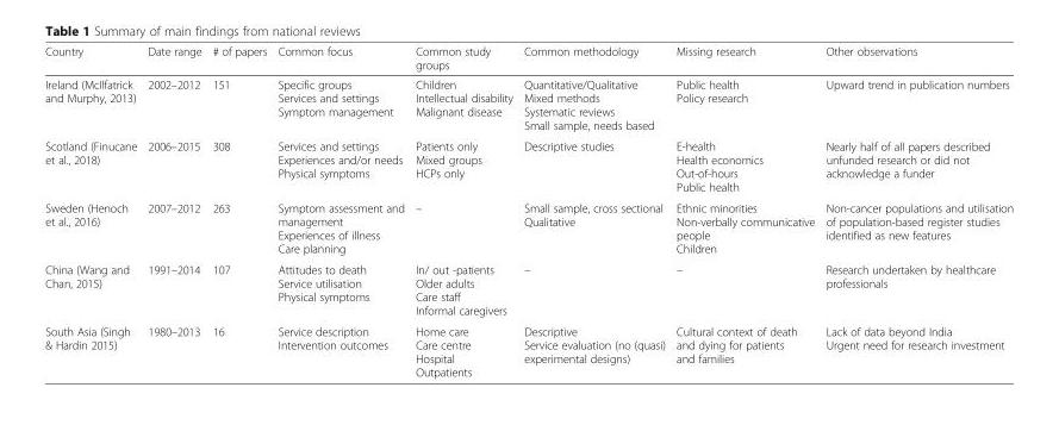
<table><thead><tr><td>Country</td><td>Date range</td><td># of papers</td><td>Common focus</td><td>Common study groups</td><td>Common methodology</td><td>Missing research</td><td>Other observations</td></tr></thead><tbody><tr><td>Ireland (McIlfatrick and Murphy, 2013)</td><td>2002–2012</td><td>151</td><td>Specific groups Services and settings Symptom management</td><td>Children Intellectual disability Malignant disease</td><td>Quantitative/Qualitative Mixed methods Systematic reviews Small sample, needs based</td><td>Public health Policy research</td><td>Upward trend in publication numbers</td></tr><tr><td>Scotland (Finucane et al., 2018)</td><td>2006–2015</td><td>308</td><td>Services and settings Experiences and/or needs Physical symptoms</td><td>Patients only Mixed groups HCPs only</td><td>Descriptive studies</td><td>E-health Health economics Out-of-hours Public health</td><td>Nearly half of all papers described unfunded research or did not acknowledge a funder</td></tr><tr><td>Sweden (Henoch et al., 2016)</td><td>2007–2012</td><td>263</td><td>Symptom assessment and management Experiences of illness Care planning</td><td>–</td><td>Small sample, cross sectional Qualitative</td><td>Ethnic minorities Non-verbally communicative people Children</td><td>Non-cancer populations and utilisation of population-based register studies identified as new features</td></tr><tr><td>China (Wang and Chan, 2015)</td><td>1991–2014</td><td>107</td><td>Attitudes to death Service utilisation Physical symptoms</td><td>In/ out -patients Older adults Care staff Informal caregivers</td><td>–</td><td>–</td><td>Research undertaken by healthcare professionals</td></tr><tr><td>South Asia (Singh &amp; Hardin 2015)</td><td>1980–2013</td><td>16</td><td>Service description Intervention outcomes</td><td>Home care Care centre Hospital Outpatients</td><td>Descriptive Service evaluation (no (quasi) experimental designs)</td><td>Cultural context of death and dying for patients and families</td><td>Lack of data beyond India Urgent need for research investment</td></tr></tbody></table>